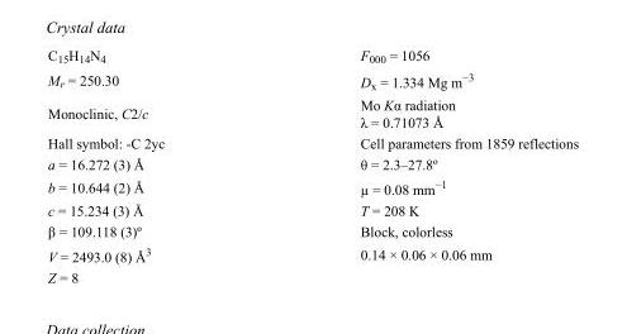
<table><tbody><tr><td>C<sub>15</sub>H<sub>14</sub>N<sub>4</sub></td><td>F000 = 1056</td></tr><tr><td>M<sub>r</sub> = 250.30</td><td>D<sub>x</sub> = 1.334 Mg m<sup>−3</sup></td></tr><tr><td>Monoclinic, C2/c</td><td>Mo Kα radiation λ = 0.71073 Å</td></tr><tr><td>Hall symbol: -C 2yc</td><td>Cell parameters from 1859 reflections</td></tr><tr><td>a = 16.272 (3) Å</td><td>θ = 2.3–27.8º</td></tr><tr><td>b = 10.644 (2) Å</td><td>µ = 0.08 mm<sup>−1</sup></td></tr><tr><td>c = 15.234 (3) Å</td><td>T = 208 K</td></tr><tr><td>β = 109.118 (3)º</td><td>Block, colorless</td></tr><tr><td>V = 2493.0 (8) Å<sup>3</sup></td><td>0.14 × 0.06 × 0.06 mm</td></tr><tr><td>Z = 8</td><td></td></tr></tbody></table>